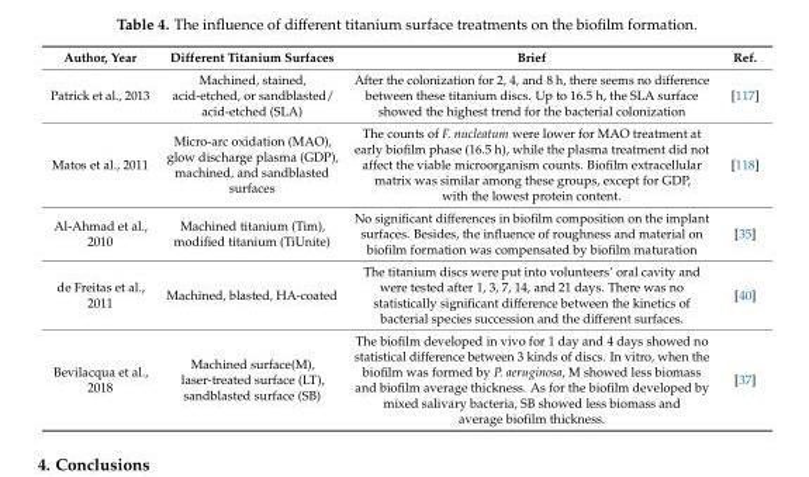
<table><thead><tr><td>Author, Year</td><td>Different Titanium Surfaces</td><td>Brief</td><td>Ref.</td></tr></thead><tbody><tr><td>Patrick et al., 2013</td><td>Machined, stained, acid-etched, or sandblasted/ acid-etched (SLA)</td><td>After the colonization for 2, 4, and 8 h, there seems no difference between these titanium discs. Up to 16.5 h, the SLA surface showed the highest trend for the bacterial colonization</td><td>[117]</td></tr><tr><td>Matos et al., 2011</td><td>Micro-arc oxidation (MAO), glow discharge plasma (GDP), machined, and sandblasted surfaces</td><td>The counts of F. nucleatum were lower for MAO treatment at early biofilm phase (16.5 h), while the plasma treatment did not affect the viable microorganism counts. Biofilm extracellular matrix was similar among these groups, except for GDP, with the lowest protein content.</td><td>[118]</td></tr><tr><td>Al-Ahmad et al., 2010</td><td>Machined titanium (Tim), modified titanium (TiUnite)</td><td>No significant differences in biofilm composition on the implant surfaces. Besides, the influence of roughness and material on biofilm formation was compensated by biofilm maturation</td><td>[35]</td></tr><tr><td>de Freitas et al., 2011</td><td>Machined, blasted, HA-coated</td><td>The titanium discs were put into volunteers’ oral cavity and were tested after 1, 3, 7, 14, and 21 days. There was no statistically significant difference between the kinetics of bacterial species succession and the different surfaces.</td><td>[40]</td></tr><tr><td>Bevilacqua et al., 2018</td><td>Machined surface(M), laser-treated surface (LT), sandblasted surface (SB)</td><td>The biofilm developed in vivo for 1 day and 4 days showed no statistical difference between 3 kinds of discs. In vitro, when the biofilm was formed by P. aeruginosa, M showed less biomass and biofilm average thickness. As for the biofilm developed by mixed salivary bacteria, SB showed less biomass and average biofilm thickness.</td><td>[37]</td></tr></tbody></table>